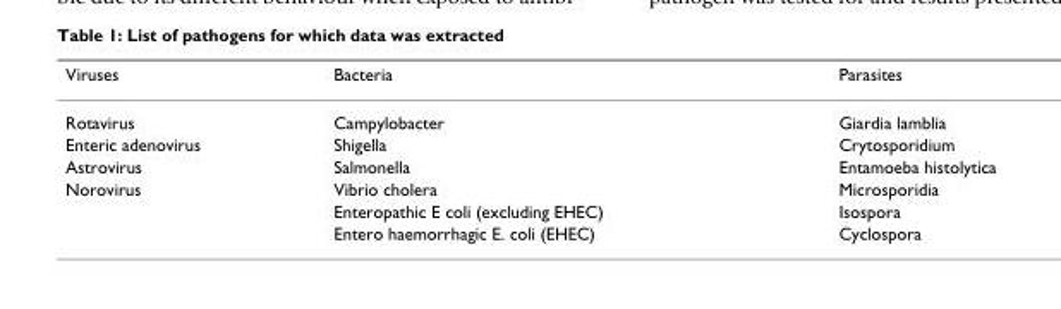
<table><thead><tr><td>Viruses</td><td>Bacteria</td><td>Parasites</td></tr></thead><tbody><tr><td>Rotavirus</td><td>Campylobacter</td><td>Giardia lamblia</td></tr><tr><td>Enteric adenovirus</td><td>Shigella</td><td>Crytosporidium</td></tr><tr><td>Astrovirus</td><td>Salmonella</td><td>Entamoeba histolytica</td></tr><tr><td rowspan="3">Norovirus</td><td>Vibrio cholera</td><td>Microsporidia</td></tr><tr><td>Enteropathic E coli (excluding EHEC)</td><td>Isospora</td></tr><tr><td>Entero haemorrhagic E. coli (EHEC)</td><td>Cyclospora</td></tr></tbody></table>